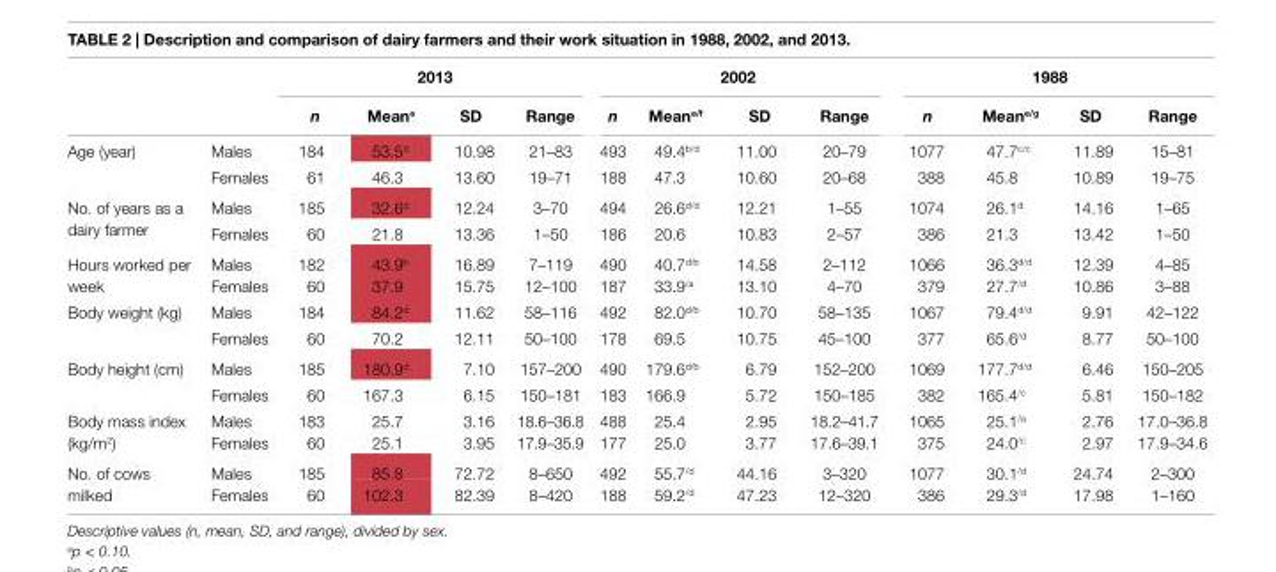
<table><thead><tr><td rowspan="2"></td><td rowspan="2"></td><td colspan="4">2013</td><td colspan="4">2002</td><td colspan="4">1988</td></tr><tr><td>n</td><td>Mean<sup>e</sup></td><td>sD</td><td>range</td><td>n</td><td>Mean<sup>e/f</sup></td><td>sD</td><td>range</td><td>n</td><td>Mean<sup>e/g</sup></td><td>sD</td><td>range</td></tr></thead><tbody><tr><td rowspan="2">Age (year)</td><td>Males</td><td>184</td><td>53.5<sup>d</sup></td><td>10.98</td><td>21–83</td><td>493</td><td>49.4<sup>b/d</sup></td><td>11.00</td><td>20–79</td><td>1077</td><td>47.7<sup>c/c</sup></td><td>11.89</td><td>15–81</td></tr><tr><td>Females</td><td>61</td><td>46.3</td><td>13.60</td><td>19–71</td><td>188</td><td>47.3</td><td>10.60</td><td>20–68</td><td>388</td><td>45.8</td><td>10.89</td><td>19–75</td></tr><tr><td rowspan="2">No. of years as a dairy farmer</td><td>Males</td><td>185</td><td>32.6<sup>d</sup></td><td>12.24</td><td>3–70</td><td>494</td><td>26.6<sup>d/d</sup></td><td>12.21</td><td>1–55</td><td>1074</td><td>26.1<sup>d</sup></td><td>14.16</td><td>1–65</td></tr><tr><td>Females</td><td>60</td><td>21.8</td><td>13.36</td><td>1–50</td><td>186</td><td>20.6</td><td>10.83</td><td>2–57</td><td>386</td><td>21.3</td><td>13.42</td><td>1–50</td></tr><tr><td rowspan="2">Hours worked per week</td><td>Males</td><td>182</td><td>43.9<sup>b</sup></td><td>16.89</td><td>7–119</td><td>490</td><td>40.7<sup>d/b</sup></td><td>14.58</td><td>2–112</td><td>1066</td><td>36.3<sup>d/d</sup></td><td>12.39</td><td>4–85</td></tr><tr><td>Females</td><td>60</td><td>37.9</td><td>15.75</td><td>12–100</td><td>187</td><td>33.9<sup>/a</sup></td><td>13.10</td><td>4–70</td><td>379</td><td>27.7<sup>/d</sup></td><td>10.86</td><td>3–88</td></tr><tr><td rowspan="2">Body weight (kg)</td><td>Males</td><td>184</td><td>84.2<sup>d</sup></td><td>11.62</td><td>58–116</td><td>492</td><td>82.0<sup>d/b</sup></td><td>10.70</td><td>58–135</td><td>1067</td><td>79.4<sup>d/d</sup></td><td>9.91</td><td>42–122</td></tr><tr><td>Females</td><td>60</td><td>70.2</td><td>12.11</td><td>50–100</td><td>178</td><td>69.5</td><td>10.75</td><td>45–100</td><td>377</td><td>65.6<sup>/d</sup></td><td>8.77</td><td>50–100</td></tr><tr><td rowspan="2">Body height (cm)</td><td>Males</td><td>185</td><td>180.9<sup>d</sup></td><td>7.10</td><td>157–200</td><td>490</td><td>179.6<sup>d/b</sup></td><td>6.79</td><td>152–200</td><td>1069</td><td>177.7<sup>d/d</sup></td><td>6.46</td><td>150–205</td></tr><tr><td>Females</td><td>60</td><td>167.3</td><td>6.15</td><td>150–181</td><td>183</td><td>166.9</td><td>5.72</td><td>150–185</td><td>382</td><td>165.4<sup>/c</sup></td><td>5.81</td><td>150–182</td></tr><tr><td rowspan="2">Body mass index (kg/m<sup>2</sup>)</td><td>Males</td><td>183</td><td>25.7</td><td>3.16</td><td>18.6–36.8</td><td>488</td><td>25.4</td><td>2.95</td><td>18.2–41.7</td><td>1065</td><td>25.1<sup>/a</sup></td><td>2.76</td><td>17.0–36.8</td></tr><tr><td>Females</td><td>60</td><td>25.1</td><td>3.95</td><td>17.9–35.9</td><td>177</td><td>25.0</td><td>3.77</td><td>17.6–39.1</td><td>375</td><td>24.0<sup>/c</sup></td><td>2.97</td><td>17.9–34.6</td></tr><tr><td rowspan="2">No. of cows milked</td><td>Males</td><td>185</td><td>85.8</td><td>72.72</td><td>8–650</td><td>492</td><td>55.7<sup>/d</sup></td><td>44.16</td><td>3–320</td><td>1077</td><td>30.1<sup>/d</sup></td><td>24.74</td><td>2–300</td></tr><tr><td>Females</td><td>60</td><td>102.3</td><td>82.39</td><td>8–420</td><td>188</td><td>59.2<sup>/d</sup></td><td>47.23</td><td>12–320</td><td>386</td><td>29.3<sup>/d</sup></td><td>17.98</td><td>1–160</td></tr></tbody></table>